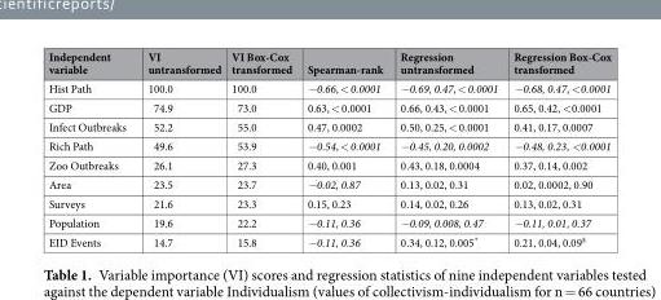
<table><thead><tr><td>Independent variable</td><td>VI untransformed</td><td>VI Box-Cox transformed</td><td>Spearman-rank</td><td>Regression untransformed</td><td>Regression Box-Cox transformed</td></tr></thead><tbody><tr><td>Hist Path</td><td>100.0</td><td>100.0</td><td>−0.66, &lt; 0.0001</td><td>−0.69, 0.47, &lt; 0.0001</td><td>−0.68, 0.47, &lt;0.0001</td></tr><tr><td>GDP</td><td>74.9</td><td>73.0</td><td>0.63, &lt; 0.0001</td><td>0.66, 0.43, &lt; 0.0001</td><td>0.65, 0.42, &lt;0.0001</td></tr><tr><td>Infect Outbreaks</td><td>52.2</td><td>55.0</td><td>0.47, 0.0002</td><td>0.50, 0.25, &lt; 0.0001</td><td>0.41, 0.17, 0.0007</td></tr><tr><td>Rich Path</td><td>49.6</td><td>53.9</td><td>−0.54, &lt; 0.0001</td><td>−0.45, 0.20, 0.0002</td><td>−0.48, 0.23, &lt;0.0001</td></tr><tr><td>Zoo Outbreaks</td><td>26.1</td><td>27.3</td><td>0.40, 0.001</td><td>0.43, 0.18, 0.0004</td><td>0.37, 0.14, 0.002</td></tr><tr><td>Area</td><td>23.5</td><td>23.7</td><td>−0.02, 0.87</td><td>0.13, 0.02, 0.31</td><td>0.02, 0.0002, 0.90</td></tr><tr><td>Surveys</td><td>21.6</td><td>23.3</td><td>0.15, 0.23</td><td>0.14, 0.02, 0.26</td><td>0.13, 0.02, 0.31</td></tr><tr><td>Population</td><td>19.6</td><td>22.2</td><td>−0.11, 0.36</td><td>−0.09, 0.008, 0.47</td><td>−0.11, 0.01, 0.37</td></tr><tr><td>EID Events</td><td>14.7</td><td>15.8</td><td>−0.11, 0.36</td><td>0.34, 0.12, 0.005*</td><td>0.21, 0.04, 0.09<sup>$</sup></td></tr></tbody></table>